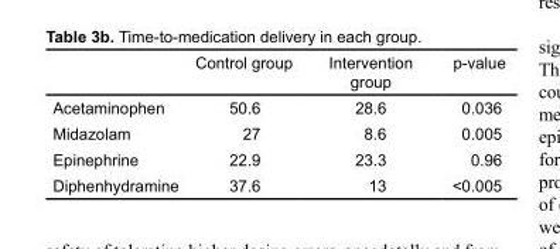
<table><thead><tr><td></td><td>Control group</td><td>Intervention group</td><td>p-value</td></tr></thead><tbody><tr><td>Acetaminophen</td><td>50.6</td><td>28.6</td><td>0.036</td></tr><tr><td>Midazolam</td><td>27</td><td>8.6</td><td>0.005</td></tr><tr><td>Epinephrine</td><td>22.9</td><td>23.3</td><td>0.96</td></tr><tr><td>Diphenhydramine</td><td>37.6</td><td>13</td><td>&lt;0.005</td></tr></tbody></table>